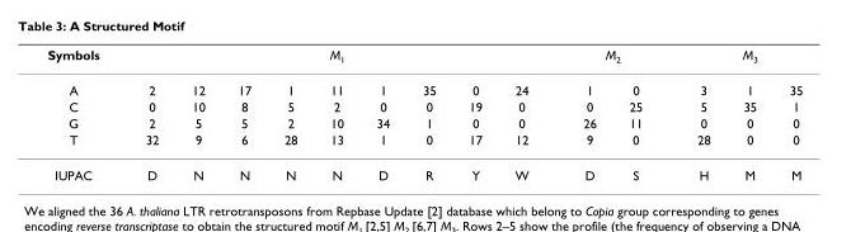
<table><tbody><tr><td>Symbols</td><td colspan="9">M<sub>1</sub></td><td colspan="2">M<sub>2</sub></td><td colspan="3">M<sub>3</sub></td></tr><tr><td>A</td><td>2</td><td>12</td><td>17</td><td>1</td><td>11</td><td>1</td><td>35</td><td>0</td><td>24</td><td>1</td><td>0</td><td>3</td><td>1</td><td>35</td></tr><tr><td>C</td><td>0</td><td>10</td><td>8</td><td>5</td><td>2</td><td>0</td><td>0</td><td>19</td><td>0</td><td>0</td><td>25</td><td>5</td><td>35</td><td>1</td></tr><tr><td>G</td><td>2</td><td>5</td><td>5</td><td>2</td><td>10</td><td>34</td><td>1</td><td>0</td><td>0</td><td>26</td><td>11</td><td>0</td><td>0</td><td>0</td></tr><tr><td>T</td><td>32</td><td>9</td><td>6</td><td>28</td><td>13</td><td>1</td><td>0</td><td>17</td><td>12</td><td>9</td><td>0</td><td>28</td><td>0</td><td>0</td></tr><tr><td>IUPAC</td><td>D</td><td>N</td><td>N</td><td>N</td><td>N</td><td>D</td><td>R</td><td>Y</td><td>W</td><td>D</td><td>S</td><td>H</td><td>M</td><td>M</td></tr></tbody></table>